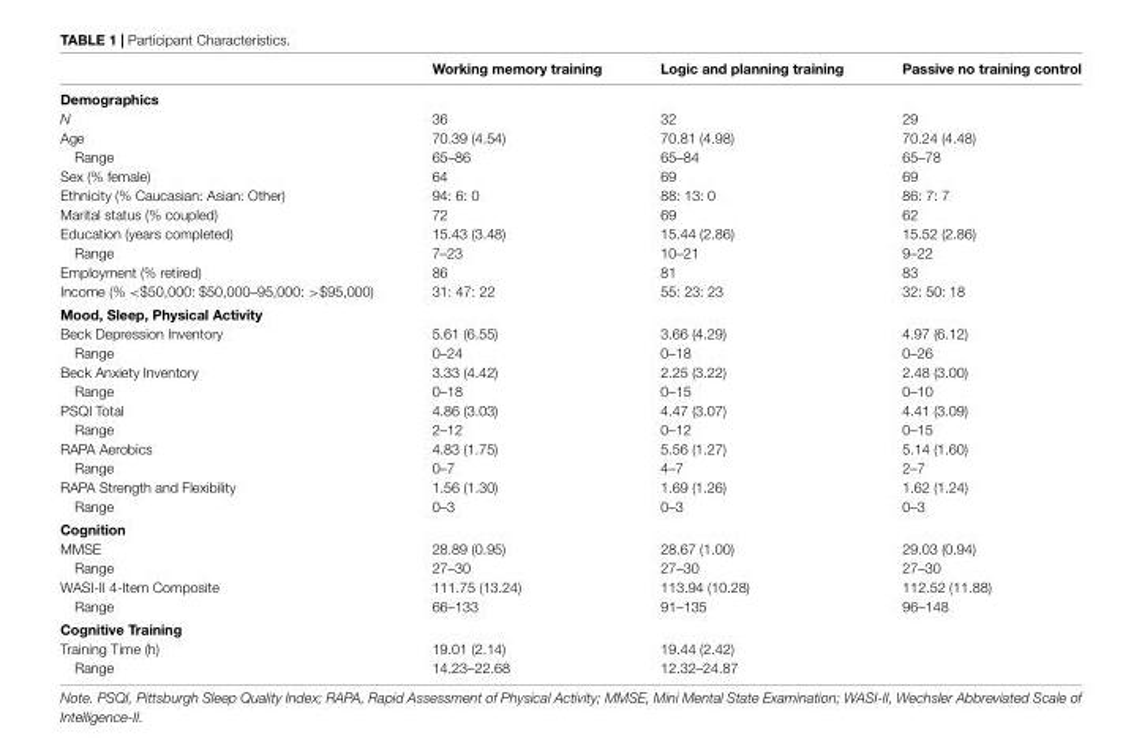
<table><thead><tr><td></td><td>Working memory training</td><td>Logic and planning training</td><td>Passive no training control</td></tr></thead><tbody><tr><td colspan="4">Demographics</td></tr><tr><td>N</td><td>36</td><td>32</td><td>29</td></tr><tr><td>Age</td><td>70.39 (4.54)</td><td>70.81 (4.98)</td><td>70.24 (4.48)</td></tr><tr><td>Range</td><td>65–86</td><td>65–84</td><td>65–78</td></tr><tr><td>Sex (% female)</td><td>64</td><td>69</td><td>69</td></tr><tr><td>Ethnicity (% Caucasian: Asian: Other)</td><td>94: 6: 0</td><td>88: 13: 0</td><td>86: 7: 7</td></tr><tr><td>Marital status (% coupled)</td><td>72</td><td>69</td><td>62</td></tr><tr><td>Education (years completed)</td><td>15.43 (3.48)</td><td>15.44 (2.86)</td><td>15.52 (2.86)</td></tr><tr><td>Range</td><td>7–23</td><td>10–21</td><td>9–22</td></tr><tr><td>Employment (% retired)</td><td>86</td><td>81</td><td>83</td></tr><tr><td>Income (% &lt;$50,000: $50,000–95,000: &gt;$95,000)</td><td>31: 47: 22</td><td>55: 23: 23</td><td>32: 50: 18</td></tr><tr><td colspan="4">Mood, Sleep, Physical Activity</td></tr><tr><td>Beck Depression Inventory</td><td>5.61 (6.55)</td><td>3.66 (4.29)</td><td>4.97 (6.12)</td></tr><tr><td>Range</td><td>0–24</td><td>0–18</td><td>0–26</td></tr><tr><td>Beck Anxiety Inventory</td><td>3.33 (4.42)</td><td>2.25 (3.22)</td><td>2.48 (3.00)</td></tr><tr><td>Range</td><td>0–18</td><td>0–15</td><td>0–10</td></tr><tr><td>PSQI Total</td><td>4.86 (3.03)</td><td>4.47 (3.07)</td><td>4.41 (3.09)</td></tr><tr><td>Range</td><td>2–12</td><td>0–12</td><td>0–15</td></tr><tr><td>RAPA Aerobics</td><td>4.83 (1.75)</td><td>5.56 (1.27)</td><td>5.14 (1.60)</td></tr><tr><td>Range</td><td>0–7</td><td>4–7</td><td>2–7</td></tr><tr><td>RAPA Strength and Flexibility</td><td>1.56 (1.30)</td><td>1.69 (1.26)</td><td>1.62 (1.24)</td></tr><tr><td>Range</td><td>0–3</td><td>0–3</td><td>0–3</td></tr><tr><td colspan="4">Cognition</td></tr><tr><td>MMSE</td><td>28.89 (0.95)</td><td>28.67 (1.00)</td><td>29.03 (0.94)</td></tr><tr><td>Range</td><td>27–30</td><td>27–30</td><td>27–30</td></tr><tr><td>WASI-II 4-Item Composite</td><td>111.75 (13.24)</td><td>113.94 (10.28)</td><td>112.52 (11.88)</td></tr><tr><td>Range</td><td>66–133</td><td>91–135</td><td>96–148</td></tr><tr><td colspan="4">Cognitive Training</td></tr><tr><td>Training Time (h)</td><td>19.01 (2.14)</td><td>19.44 (2.42)</td><td></td></tr><tr><td>Range</td><td>14.23–22.68</td><td>12.32–24.87</td><td></td></tr></tbody></table>